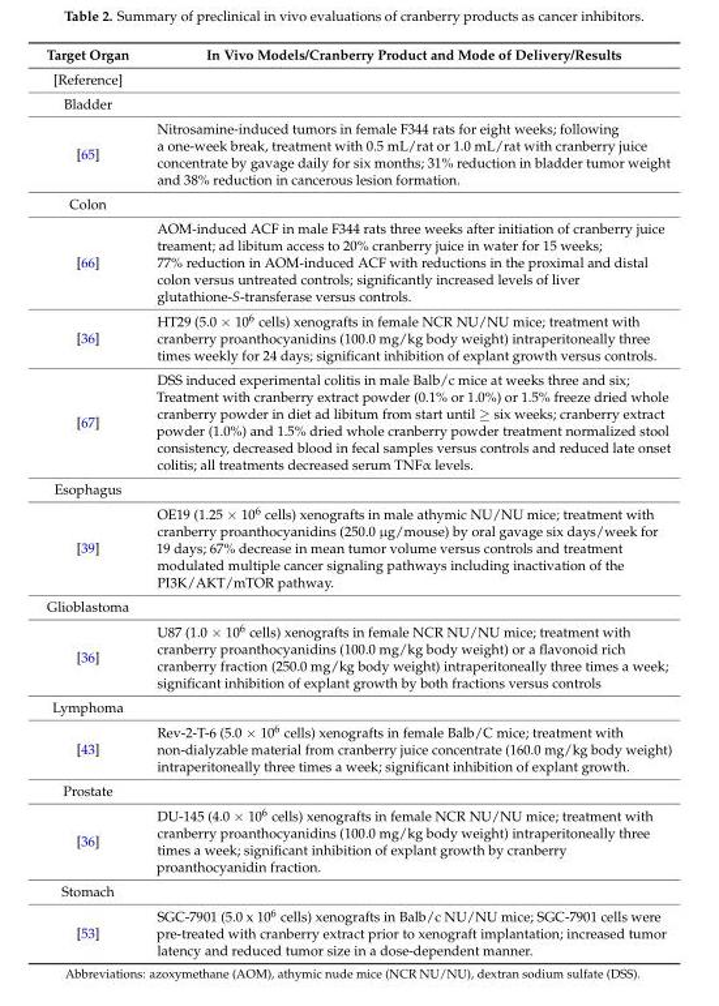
<table><thead><tr><td>Target Organ</td><td>In Vivo Models/Cranberry Product and Mode of Delivery/Results</td></tr></thead><tbody><tr><td colspan="2">[Reference]</td></tr><tr><td colspan="2">Bladder</td></tr><tr><td>[65]</td><td>Nitrosamine-induced tumors in female F344 rats for eight weeks; following a one-week break, treatment with 0.5 mL/rat or 1.0 mL/rat with cranberry juice concentrate by gavage daily for six months; 31% reduction in bladder tumor weight and 38% reduction in cancerous lesion formation.</td></tr><tr><td colspan="2">Colon</td></tr><tr><td>[66]</td><td>AOM-induced ACF in male F344 rats three weeks after initiation of cranberry juice treament; ad libitum access to 20% cranberry juice in water for 15 weeks; 77% reduction in AOM-induced ACF with reductions in the proximal and distal colon versus untreated controls; significantly increased levels of liver glutathione-S-transferase versus controls.</td></tr><tr><td>[36]</td><td>HT29 (5.0 × 10<sup>6</sup> cells) xenografts in female NCR NU/NU mice; treatment with cranberry proanthocyanidins (100.0 mg/kg body weight) intraperitoneally three times weekly for 24 days; significant inhibition of explant growth versus controls.</td></tr><tr><td>[67]</td><td>DSS induced experimental colitis in male Balb/c mice at weeks three and six; Treatment with cranberry extract powder (0.1% or 1.0%) or 1.5% freeze dried whole cranberry powder in diet ad libitum from start until ≥ six weeks; cranberry extract powder (1.0%) and 1.5% dried whole cranberry powder treatment normalized stool consistency, decreased blood in fecal samples versus controls and reduced late onset colitis; all treatments decreased serum TNFα levels.</td></tr><tr><td colspan="2">Esophagus</td></tr><tr><td>[39]</td><td>OE19 (1.25 × 10<sup>6</sup> cells) xenografts in male athymic NU/NU mice; treatment with cranberry proanthocyanidins (250.0 µg/mouse) by oral gavage six days/week for 19 days; 67% decrease in mean tumor volume versus controls and treatment modulated multiple cancer signaling pathways including inactivation of the PI3K/AKT/mTOR pathway.</td></tr><tr><td colspan="2">Glioblastoma</td></tr><tr><td>[36]</td><td>U87 (1.0 × 10<sup>6</sup> cells) xenografts in female NCR NU/NU mice; treatment with cranberry proanthocyanidins (100.0 mg/kg body weight) or a flavonoid rich cranberry fraction (250.0 mg/kg body weight) intraperitoneally three times a week; significant inhibition of explant growth by both fractions versus controls</td></tr><tr><td colspan="2">Lymphoma</td></tr><tr><td>[43]</td><td>Rev-2-T-6 (5.0 × 10<sup>6</sup> cells) xenografts in female Balb/C mice; treatment with non-dialyzable material from cranberry juice concentrate (160.0 mg/kg body weight) intraperitoneally three times a week; significant inhibition of explant growth.</td></tr><tr><td colspan="2">Prostate</td></tr><tr><td>[36]</td><td>DU-145 (4.0 × 10<sup>6</sup> cells) xenografts in female NCR NU/NU mice; treatment with cranberry proanthocyanidins (100.0 mg/kg body weight) intraperitoneally three times a week; significant inhibition of explant growth by cranberry proanthocyanidin fraction.</td></tr><tr><td colspan="2">Stomach</td></tr><tr><td>[53]</td><td>SGC-7901 (5.0 x 10<sup>6</sup> cells) xenografts in Balb/c NU/NU mice; SGC-7901 cells were pre-treated with cranberry extract prior to xenograft implantation; increased tumor latency and reduced tumor size in a dose-dependent manner.</td></tr></tbody></table>